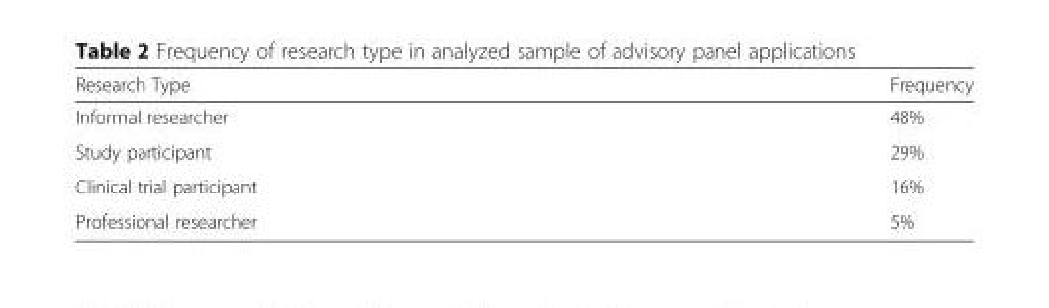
<table><thead><tr><td>Research Type</td><td>Frequency</td></tr></thead><tbody><tr><td>Informal researcher</td><td>48%</td></tr><tr><td>Study participant</td><td>29%</td></tr><tr><td>Clinical trial participant</td><td>16%</td></tr><tr><td>Professional researcher</td><td>5%</td></tr></tbody></table>